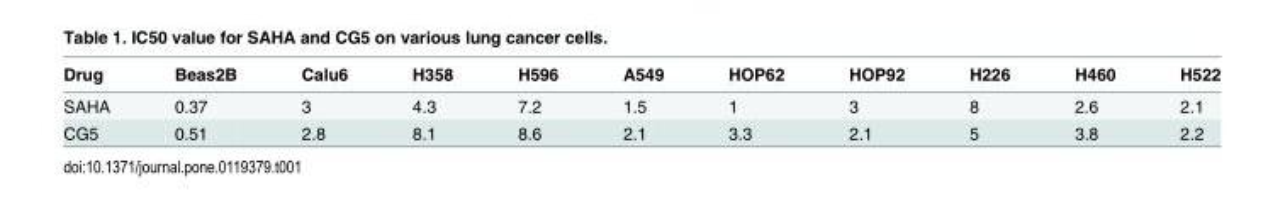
<table><thead><tr><td>Drug</td><td>Beas2B</td><td>Calu6</td><td>H358</td><td>H596</td><td>A549</td><td>HOP62</td><td>HOP92</td><td>H226</td><td>H460</td><td>H522</td></tr></thead><tbody><tr><td>SAHA</td><td>0.37</td><td>3</td><td>4.3</td><td>7.2</td><td>1.5</td><td>1</td><td>3</td><td>8</td><td>2.6</td><td>2.1</td></tr><tr><td>CG5</td><td>0.51</td><td>2.8</td><td>8.1</td><td>8.6</td><td>2.1</td><td>3.3</td><td>2.1</td><td>5</td><td>3.8</td><td>2.2</td></tr></tbody></table>